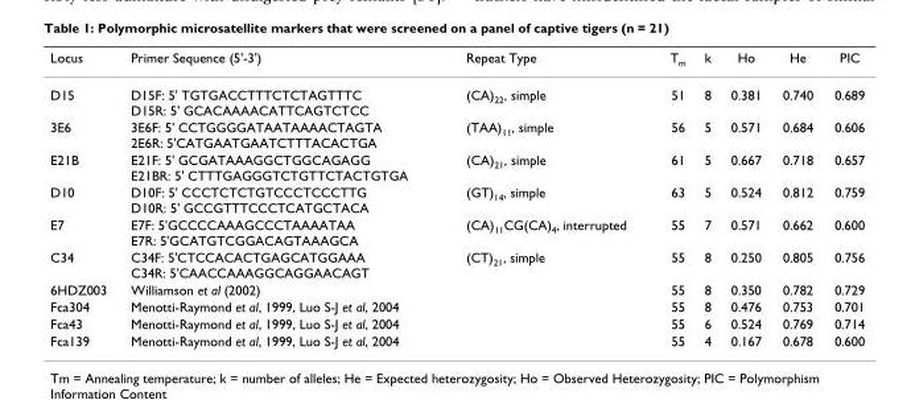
<table><thead><tr><td>Locus</td><td>Primer Sequence (5&#x27;-3&#x27;)</td><td>Repeat Type</td><td>T<sub>m</sub></td><td>k</td><td>Ho</td><td>He</td><td>PIC</td></tr></thead><tbody><tr><td>D15</td><td>D15F: 5&#x27; TGTGACCTTTCTCTAGTTTC D15R: 5&#x27; GCACAAAACATTCAGTCTCC</td><td>(CA)<sub>22</sub>, simple</td><td>51</td><td>8</td><td>0.381</td><td>0.740</td><td>0.689</td></tr><tr><td>3E6</td><td>3E6F: 5&#x27; CCTGGGGATAATAAAACTAGTA 2E6R: 5&#x27;CATGAATGAATCTTTACACTGA</td><td>(TAA)<sub>11</sub>, simple</td><td>56</td><td>5</td><td>0.571</td><td>0.684</td><td>0.606</td></tr><tr><td>E21B</td><td>E21F: 5&#x27; GCGATAAAGGCTGGCAGAGG E21BR: 5&#x27; CTTTGAGGGTCTGTTCTACTGTGA</td><td>(CA)<sub>21</sub>, simple</td><td>61</td><td>5</td><td>0.667</td><td>0.718</td><td>0.657</td></tr><tr><td>D10</td><td>D10F: 5&#x27; CCCTCTCTGTCCCTCCCTTG D10R: 5&#x27; GCCGTTTCCCTCATGCTACA</td><td>(GT)<sub>14</sub>, simple</td><td>63</td><td>5</td><td>0.524</td><td>0.812</td><td>0.759</td></tr><tr><td>E7</td><td>E7F: 5&#x27;GCCCCAAAGCCCTAAAATAA E7R: 5&#x27;GCATGTCGGACAGTAAAGCA</td><td>(CA)<sub>11</sub>CG(CA)<sub>4</sub>, interrupted</td><td>55</td><td>7</td><td>0.571</td><td>0.662</td><td>0.600</td></tr><tr><td>C34</td><td>C34F: 5&#x27;CTCCACACTGAGCATGGAAA C34R: 5&#x27;CAACCAAAGGCAGGAACAGT</td><td>(CT)<sub>21</sub>, simple</td><td>55</td><td>8</td><td>0.250</td><td>0.805</td><td>0.756</td></tr><tr><td>6HDZ003</td><td>Williamson et al (2002)</td><td></td><td>55</td><td>8</td><td>0.350</td><td>0.782</td><td>0.729</td></tr><tr><td>Fca304</td><td>Menotti-Raymond et al, 1999, Luo S-J et al, 2004</td><td></td><td>55</td><td>8</td><td>0.476</td><td>0.753</td><td>0.701</td></tr><tr><td>Fca43</td><td>Menotti-Raymond et al, 1999, Luo S-J et al, 2004</td><td></td><td>55</td><td>6</td><td>0.524</td><td>0.769</td><td>0.714</td></tr><tr><td>Fca139</td><td>Menotti-Raymond et al, 1999, Luo S-J et al, 2004</td><td></td><td>55</td><td>4</td><td>0.167</td><td>0.678</td><td>0.600</td></tr></tbody></table>